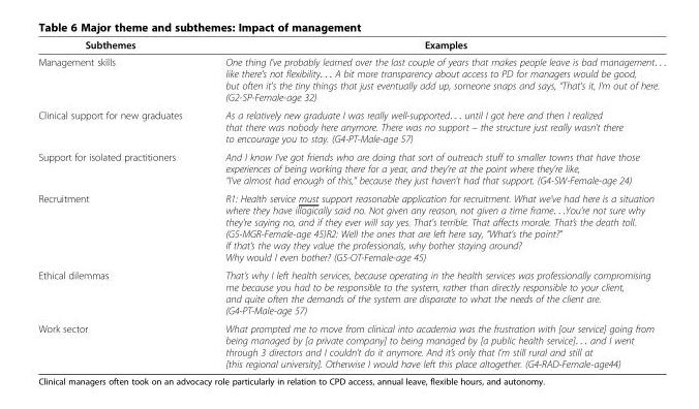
<table><thead><tr><td>Subthemes</td><td>Examples</td></tr></thead><tbody><tr><td>Management skills</td><td>One thing I&#x27;ve probably learned over the last couple of years that makes people leave is bad management. like there&#x27;s not flexibility. . . A bit more transparency about access to PD for managers would be good, but often it&#x27;s the tiny things that just eventually add up, someone snaps and says, “That&#x27;s it, I&#x27;m out of here. (G2-SP-Female-age 32)</td></tr><tr><td>Clinical support for new graduates</td><td>As a relatively new graduate I was really well-supported. . . until I got here and then I realized that there was nobody here anymore. There was no support – the structure just really wasn’t there to encourage you to stay. (G4-PT-Male-age 57)</td></tr><tr><td>Support for isolated practitioners</td><td>And I know I’ve got friends who are doing that sort of outreach stuff to smaller towns that have those experiences of being working there for a year, and they’re at the point where they’re like, “I’ve almost had enough of this,” because they just haven’t had that support. (G4-SW-Female-age 24)</td></tr><tr><td>Recruitment</td><td>R1: Health service must support reasonable application for recruitment. What we&#x27;ve had here is a situation where they have illogically said no. Not given any reason, not given a time frame. . .You&#x27;re not sure why they&#x27;re saying no, and if they ever will say yes. That&#x27;s terrible. That affects morale. That’s the death toll. (G5-MGR-Female-age 45)R2: Well the ones that are left here say, “What&#x27;s the point?” If that’s the way they value the professionals, why bother staying around? Why would I even bother? (G5-OT-Female-age 45)</td></tr><tr><td>Ethical dilemmas</td><td>That’s why I left health services, because operating in the health services was professionally compromising me because you had to be responsible to the system, rather than directly responsible to your client, and quite often the demands of the system are disparate to what the needs of the client are. (G4-PT-Male-age 57)</td></tr><tr><td>Work sector</td><td>What prompted me to move from clinical into academia was the frustration with [our service] going from being managed by [a private company] to being managed by [a public health service]. . . and I went through 3 directors and I couldn’t do it anymore. And it’s only that I’m still rural and still at [this regional university]. Otherwise I would have left this place altogether. (G4-RAD-Female-age44)</td></tr></tbody></table>